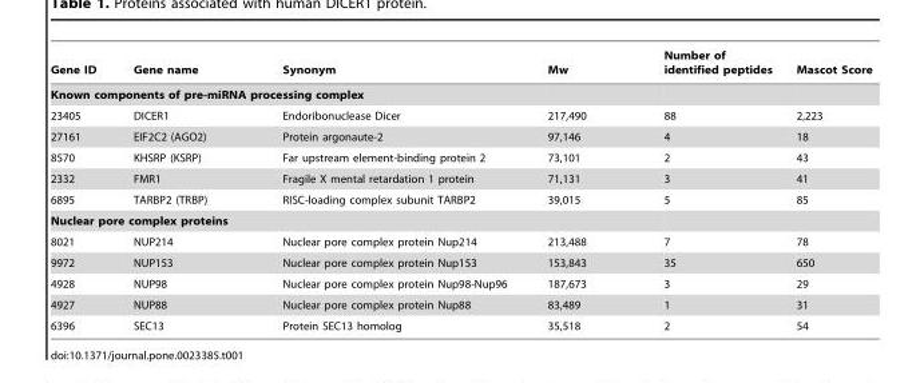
<table><thead><tr><td>Gene ID</td><td>Gene name</td><td>Synonym</td><td>Mw</td><td>Number of identified peptides</td><td>Mascot Score</td></tr></thead><tbody><tr><td colspan="6">Known components of pre-miRNA processing complex</td></tr><tr><td>23405</td><td>DICER1</td><td>Endoribonuclease Dicer</td><td>217,490</td><td>88</td><td>2,223</td></tr><tr><td>27161</td><td>EIF2C2 (AGO2)</td><td>Protein argonaute-2</td><td>97,146</td><td>4</td><td>18</td></tr><tr><td>8570</td><td>KHSRP (KSRP)</td><td>Far upstream element-binding protein 2</td><td>73,101</td><td>2</td><td>43</td></tr><tr><td>2332</td><td>FMR1</td><td>Fragile X mental retardation 1 protein</td><td>71,131</td><td>3</td><td>41</td></tr><tr><td>6895</td><td>TARBP2 (TRBP)</td><td>RISC-loading complex subunit TARBP2</td><td>39,015</td><td>5</td><td>85</td></tr><tr><td colspan="6">Nuclear pore complex proteins</td></tr><tr><td>8021</td><td>NUP214</td><td>Nuclear pore complex protein Nup214</td><td>213,488</td><td>7</td><td>78</td></tr><tr><td>9972</td><td>NUP153</td><td>Nuclear pore complex protein Nup153</td><td>153,843</td><td>35</td><td>650</td></tr><tr><td>4928</td><td>NUP98</td><td>Nuclear pore complex protein Nup98-Nup96</td><td>187,673</td><td>3</td><td>29</td></tr><tr><td>4927</td><td>NUP88</td><td>Nuclear pore complex protein Nup88</td><td>83,489</td><td>1</td><td>31</td></tr><tr><td>6396</td><td>SEC13</td><td>Protein SEC13 homolog</td><td>35,518</td><td>2</td><td>54</td></tr></tbody></table>